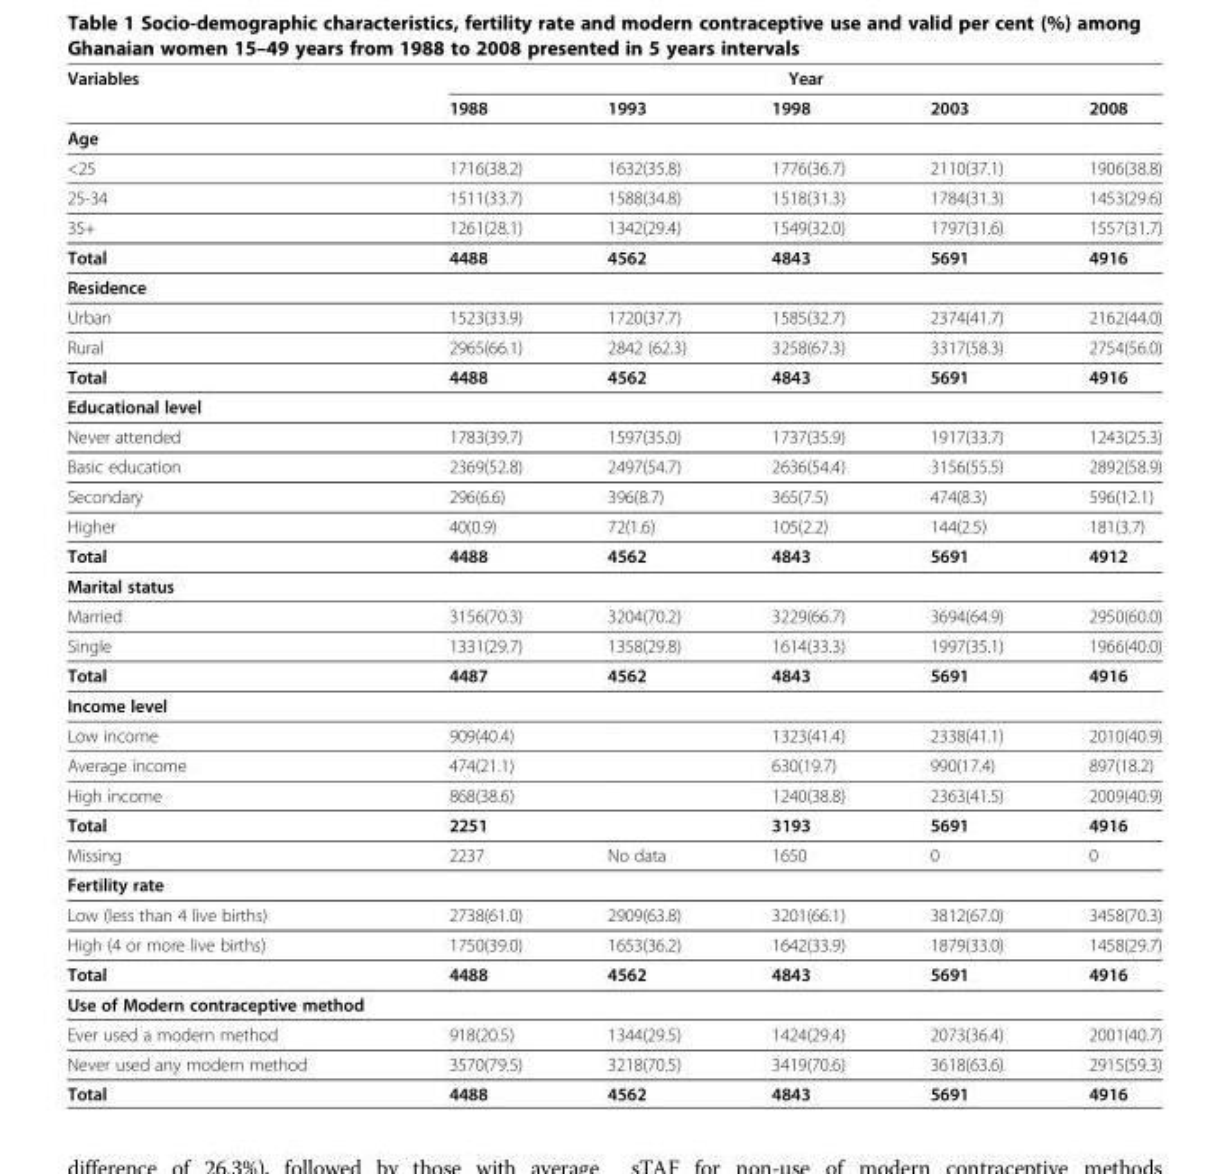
<table><thead><tr><td rowspan="2">Variables</td><td colspan="5">Year</td></tr><tr><td>1988</td><td>1993</td><td>1998</td><td>2003</td><td>2008</td></tr></thead><tbody><tr><td colspan="6">Age</td></tr><tr><td>&lt;25</td><td>1716(38.2)</td><td>1632(35.8)</td><td>1776(36.7)</td><td>2110(37.1)</td><td>1906(38.8)</td></tr><tr><td>25-34</td><td>1511(33.7)</td><td>1588(34.8)</td><td>1518(31.3)</td><td>1784(31.3)</td><td>1453(29.6)</td></tr><tr><td>35+</td><td>1261(28.1)</td><td>1342(29.4)</td><td>1549(32.0)</td><td>1797(31.6)</td><td>1557(31.7)</td></tr><tr><td>Total</td><td>4488</td><td>4562</td><td>4843</td><td>5691</td><td>4916</td></tr><tr><td colspan="6">Residence</td></tr><tr><td>Urban</td><td>1523(33.9)</td><td>1720(37.7)</td><td>1585(32.7)</td><td>2374(41.7)</td><td>2162(44.0)</td></tr><tr><td>Rural</td><td>2965(66.1)</td><td>2842 (62.3)</td><td>3258(67.3)</td><td>3317(58.3)</td><td>2754(56.0)</td></tr><tr><td>Total</td><td>4488</td><td>4562</td><td>4843</td><td>5691</td><td>4916</td></tr><tr><td colspan="6">Educational level</td></tr><tr><td>Never attended</td><td>1783(39.7)</td><td>1597(35.0)</td><td>1737(35.9)</td><td>1917(33.7)</td><td>1243(25.3)</td></tr><tr><td>Basic education</td><td>2369(52.8)</td><td>2497(54.7)</td><td>2636(54.4)</td><td>3156(55.5)</td><td>2892(58.9)</td></tr><tr><td>Secondary</td><td>296(6.6)</td><td>396(8.7)</td><td>365(7.5)</td><td>474(8.3)</td><td>596(12.1)</td></tr><tr><td>Higher</td><td>40(0.9)</td><td>72(1.6)</td><td>105(2.2)</td><td>144(2.5)</td><td>181(3.7)</td></tr><tr><td>Total</td><td>4488</td><td>4562</td><td>4843</td><td>5691</td><td>4912</td></tr><tr><td colspan="6">Marital status</td></tr><tr><td>Married</td><td>3156(70.3)</td><td>3204(70.2)</td><td>3229(66.7)</td><td>3694(64.9)</td><td>2950(60.0)</td></tr><tr><td>Single</td><td>1331(29.7)</td><td>1358(29.8)</td><td>1614(33.3)</td><td>1997(35.1)</td><td>1966(40.0)</td></tr><tr><td>Total</td><td>4487</td><td>4562</td><td>4843</td><td>5691</td><td>4916</td></tr><tr><td colspan="6">Income level</td></tr><tr><td>Low income</td><td>909(40.4)</td><td></td><td>1323(41.4)</td><td>2338(41.1)</td><td>2010(40.9)</td></tr><tr><td>Average income</td><td>474(21.1)</td><td></td><td>630(19.7)</td><td>990(17.4)</td><td>897(18.2)</td></tr><tr><td>High income</td><td>868(38.6)</td><td></td><td>1240(38.8)</td><td>2363(41.5)</td><td>2009(40.9)</td></tr><tr><td>Total</td><td>2251</td><td></td><td>3193</td><td>5691</td><td>4916</td></tr><tr><td>Missing</td><td>2237</td><td>No data</td><td>1650</td><td>0</td><td>0</td></tr><tr><td colspan="6">Fertility rate</td></tr><tr><td>Low (less than 4 live births)</td><td>2738(61.0)</td><td>2909(63.8)</td><td>3201(66.1)</td><td>3812(67.0)</td><td>3458(70.3)</td></tr><tr><td>High (4 or more live births)</td><td>1750(39.0)</td><td>1653(36.2)</td><td>1642(33.9)</td><td>1879(33.0)</td><td>1458(29.7)</td></tr><tr><td>Total</td><td>4488</td><td>4562</td><td>4843</td><td>5691</td><td>4916</td></tr><tr><td colspan="6">Use of Modern contraceptive method</td></tr><tr><td>Ever used a modern method</td><td>918(20.5)</td><td>1344(29.5)</td><td>1424(29.4)</td><td>2073(36.4)</td><td>2001(40.7)</td></tr><tr><td>Never used any modern method</td><td>3570(79.5)</td><td>3218(70.5)</td><td>3419(70.6)</td><td>3618(63.6)</td><td>2915(59.3)</td></tr><tr><td>Total</td><td>4488</td><td>4562</td><td>4843</td><td>5691</td><td>4916</td></tr></tbody></table>